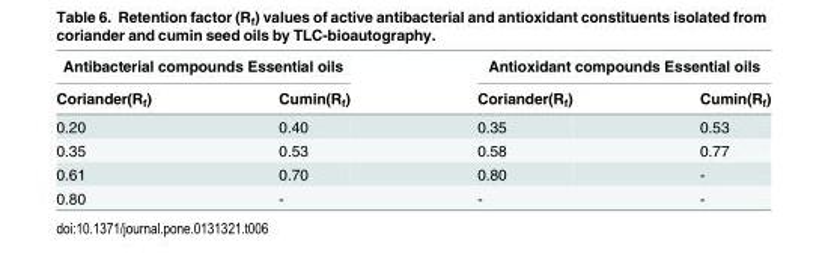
<table><thead><tr><td colspan="2">Antibacterial compounds Essential oils</td><td colspan="2">Antioxidant compounds Essential oils</td></tr><tr><td>Coriander(R<sub>f</sub>)</td><td>Cumin(R<sub>f</sub>)</td><td>Coriander(R<sub>f</sub>)</td><td>Cumin(R<sub>f</sub>)</td></tr></thead><tbody><tr><td>0.20</td><td>0.40</td><td>0.35</td><td>0.53</td></tr><tr><td>0.35</td><td>0.53</td><td>0.58</td><td>0.77</td></tr><tr><td>0.61</td><td>0.70</td><td>0.80</td><td>-</td></tr><tr><td>0.80</td><td>-</td><td>-</td><td>-</td></tr></tbody></table>